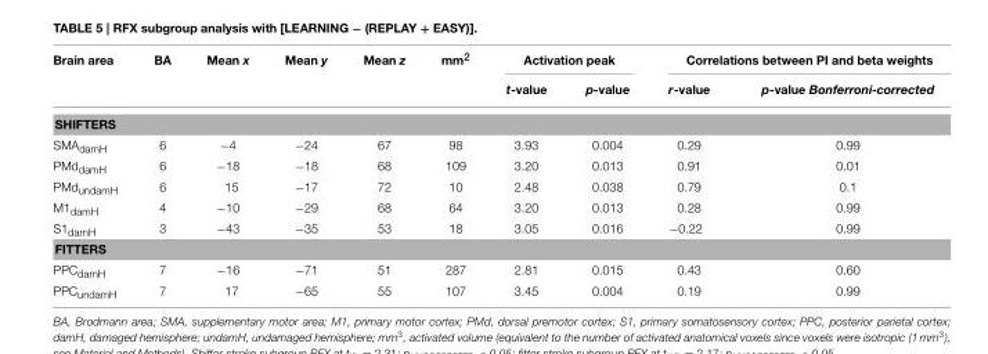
<table><thead><tr><td rowspan="2">Brain area</td><td rowspan="2">BA</td><td rowspan="2">Mean x</td><td rowspan="2">Mean y</td><td rowspan="2">Mean z</td><td rowspan="2">mm<sup>2</sup></td><td colspan="2">Activation peak</td><td colspan="2">Correlations between PI and beta weights</td></tr><tr><td>t-value</td><td>p-value</td><td>r-value</td><td>p-value Bonferroni-corrected</td></tr></thead><tbody><tr><td colspan="10">SHIFTERS</td></tr><tr><td>SMA<sub>damH</sub></td><td>6</td><td>−4</td><td>−24</td><td>67</td><td>98</td><td>3.93</td><td>0.004</td><td>0.29</td><td>0.99</td></tr><tr><td>PMd<sub>damH</sub></td><td>6</td><td>−18</td><td>−18</td><td>68</td><td>109</td><td>3.20</td><td>0.013</td><td>0.91</td><td>0.01</td></tr><tr><td>PMd<sub>undamH</sub></td><td>6</td><td>15</td><td>−17</td><td>72</td><td>10</td><td>2.48</td><td>0.038</td><td>0.79</td><td>0.1</td></tr><tr><td>M1<sub>damH</sub></td><td>4</td><td>−10</td><td>−29</td><td>68</td><td>64</td><td>3.20</td><td>0.013</td><td>0.28</td><td>0.99</td></tr><tr><td>S1<sub>damH</sub></td><td>3</td><td>−43</td><td>−35</td><td>53</td><td>18</td><td>3.05</td><td>0.016</td><td>−0.22</td><td>0.99</td></tr><tr><td colspan="10">FITTERS</td></tr><tr><td>PPC<sub>damH</sub></td><td>7</td><td>−16</td><td>−71</td><td>51</td><td>287</td><td>2.81</td><td>0.015</td><td>0.43</td><td>0.60</td></tr><tr><td>PPC<sub>undamH</sub></td><td>7</td><td>17</td><td>−65</td><td>55</td><td>107</td><td>3.45</td><td>0.004</td><td>0.19</td><td>0.99</td></tr></tbody></table>